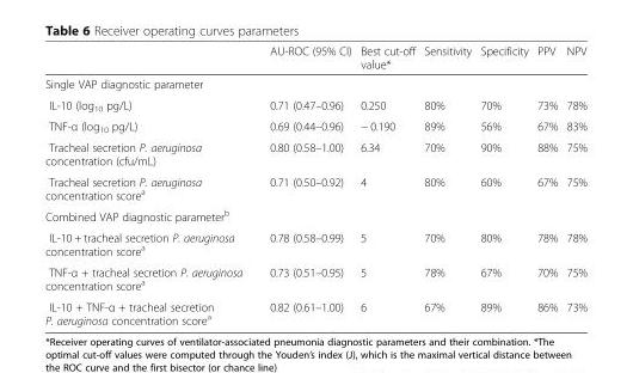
<table><thead><tr><td></td><td>AU-ROC (95% CI)</td><td>Best cut-off value*</td><td>Sensitivity</td><td>Specificity</td><td>PPV</td><td>NPV</td></tr></thead><tbody><tr><td colspan="7">Single VAP diagnostic parameter</td></tr><tr><td>IL-10 (log<sub>10</sub> pg/L)</td><td>0.71 (0.47–0.96)</td><td>0.250</td><td>80%</td><td>70%</td><td>73%</td><td>78%</td></tr><tr><td>TNF-α (log<sub>10</sub> pg/L)</td><td>0.69 (0.44–0.96)</td><td>− 0.190</td><td>89%</td><td>56%</td><td>67%</td><td>83%</td></tr><tr><td>Tracheal secretion P. aeruginosa concentration (cfu/mL)</td><td>0.80 (0.58–1.00)</td><td>6.34</td><td>70%</td><td>90%</td><td>88%</td><td>75%</td></tr><tr><td>Tracheal secretion P. aeruginosa concentration score<sup>a</sup></td><td>0.71 (0.50–0.92)</td><td>4</td><td>80%</td><td>60%</td><td>67%</td><td>75%</td></tr><tr><td colspan="7">Combined VAP diagnostic parameter<sup>b</sup></td></tr><tr><td>IL-10 + tracheal secretion P. aeruginosa concentration score<sup>a</sup></td><td>0.78 (0.58–0.99)</td><td>5</td><td>70%</td><td>80%</td><td>78%</td><td>78%</td></tr><tr><td>TNF-α + tracheal secretion P. aeruginosa concentration score<sup>a</sup></td><td>0.73 (0.51–0.95)</td><td>5</td><td>78%</td><td>67%</td><td>70%</td><td>75%</td></tr><tr><td>IL-10 + TNF-α + tracheal secretion P. aeruginosa concentration score<sup>a</sup></td><td>0.82 (0.61–1.00)</td><td>6</td><td>67%</td><td>89%</td><td>86%</td><td>73%</td></tr></tbody></table>